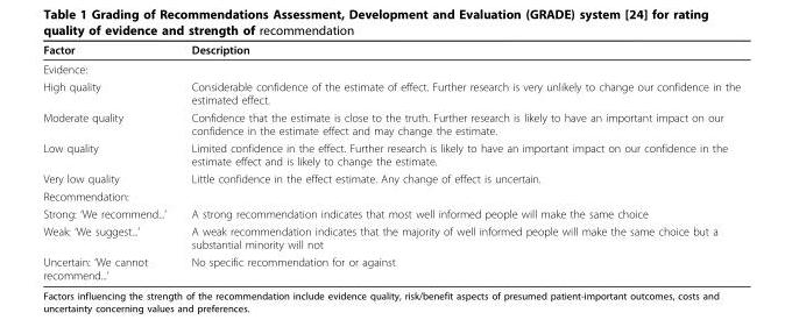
<table><thead><tr><td>Factor</td><td>Description</td></tr></thead><tbody><tr><td colspan="2">Evidence:</td></tr><tr><td>High quality</td><td>Considerable confidence of the estimate of effect. Further research is very unlikely to change our confidence in the estimated effect.</td></tr><tr><td>Moderate quality</td><td>Confidence that the estimate is close to the truth. Further research is likely to have an important impact on our confidence in the estimate effect and may change the estimate.</td></tr><tr><td>Low quality</td><td>Limited confidence in the effect. Further research is likely to have an important impact on our confidence in the estimate effect and is likely to change the estimate.</td></tr><tr><td>Very low quality</td><td>Little confidence in the effect estimate. Any change of effect is uncertain.</td></tr><tr><td colspan="2">Recommendation:</td></tr><tr><td>Strong: ‘We recommend...’</td><td>A strong recommendation indicates that most well informed people will make the same choice</td></tr><tr><td>Weak: ‘We suggest...’</td><td>A weak recommendation indicates that the majority of well informed people will make the same choice but a substantial minority will not</td></tr><tr><td>Uncertain: ‘We cannot recommend...’</td><td>No specific recommendation for or against</td></tr></tbody></table>